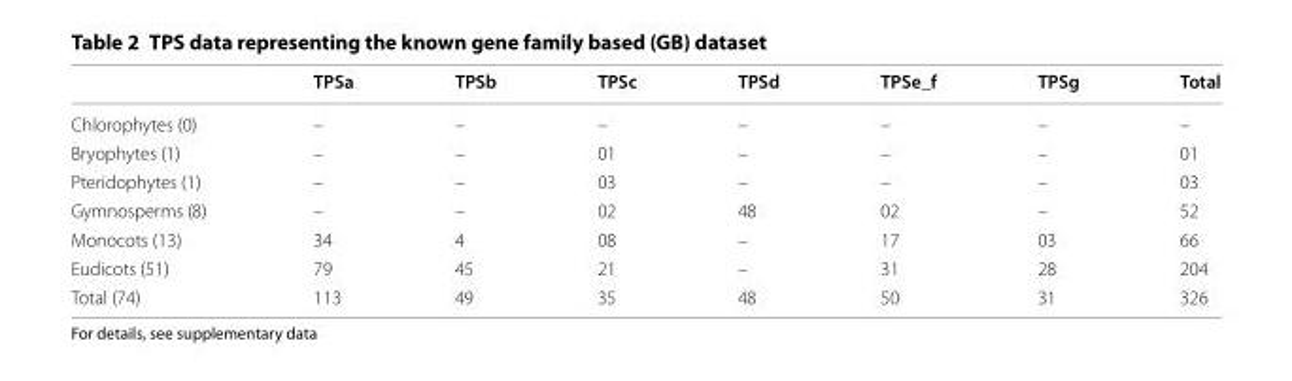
<table><thead><tr><td></td><td>TPSa</td><td>TPSb</td><td>TPSc</td><td>TPSd</td><td>TPSe_f</td><td>TPSg</td><td>Total</td></tr></thead><tbody><tr><td>Chlorophytes (0)</td><td>–</td><td>–</td><td>–</td><td>–</td><td>–</td><td>–</td><td>–</td></tr><tr><td>Bryophytes (1)</td><td>–</td><td>–</td><td>01</td><td>–</td><td>–</td><td>–</td><td>01</td></tr><tr><td>Pteridophytes (1)</td><td>–</td><td>–</td><td>03</td><td>–</td><td>–</td><td>–</td><td>03</td></tr><tr><td>Gymnosperms (8)</td><td>–</td><td>–</td><td>02</td><td>48</td><td>02</td><td>–</td><td>52</td></tr><tr><td>Monocots (13)</td><td>34</td><td>4</td><td>08</td><td>–</td><td>17</td><td>03</td><td>66</td></tr><tr><td>Eudicots (51)</td><td>79</td><td>45</td><td>21</td><td>–</td><td>31</td><td>28</td><td>204</td></tr><tr><td>Total (74)</td><td>113</td><td>49</td><td>35</td><td>48</td><td>50</td><td>31</td><td>326</td></tr></tbody></table>